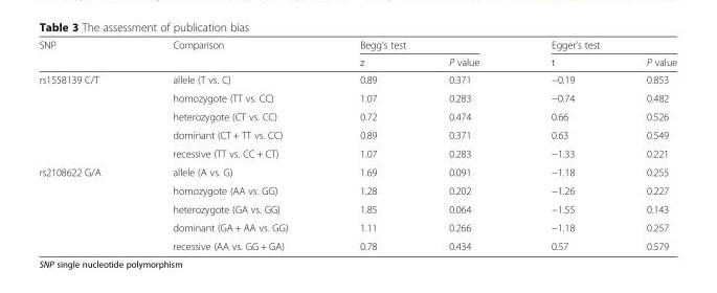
<table><thead><tr><td rowspan="2">SNP</td><td rowspan="2">Comparison</td><td colspan="2">Begg’s test</td><td colspan="2">Egger’s test</td></tr><tr><td>z</td><td>P value</td><td>t</td><td>P value</td></tr></thead><tbody><tr><td rowspan="5">rs1558139 C/T</td><td>allele (T vs. C)</td><td>0.89</td><td>0.371</td><td>−0.19</td><td>0.853</td></tr><tr><td>homozygote (TT vs. CC)</td><td>1.07</td><td>0.283</td><td>−0.74</td><td>0.482</td></tr><tr><td>heterozygote (CT vs. CC)</td><td>0.72</td><td>0.474</td><td>0.66</td><td>0.526</td></tr><tr><td>dominant (CT + TT vs. CC)</td><td>0.89</td><td>0.371</td><td>0.63</td><td>0.549</td></tr><tr><td>recessive (TT vs. CC + CT)</td><td>1.07</td><td>0.283</td><td>−1.33</td><td>0.221</td></tr><tr><td rowspan="5">rs2108622 G/A</td><td>allele (A vs. G)</td><td>1.69</td><td>0.091</td><td>−1.18</td><td>0.255</td></tr><tr><td>homozygote (AA vs. GG)</td><td>1.28</td><td>0.202</td><td>−1.26</td><td>0.227</td></tr><tr><td>heterozygote (GA vs. GG)</td><td>1.85</td><td>0.064</td><td>−1.55</td><td>0.143</td></tr><tr><td>dominant (GA + AA vs. GG)</td><td>1.11</td><td>0.266</td><td>−1.18</td><td>0.257</td></tr><tr><td>recessive (AA vs. GG + GA)</td><td>0.78</td><td>0.434</td><td>0.57</td><td>0.579</td></tr></tbody></table>